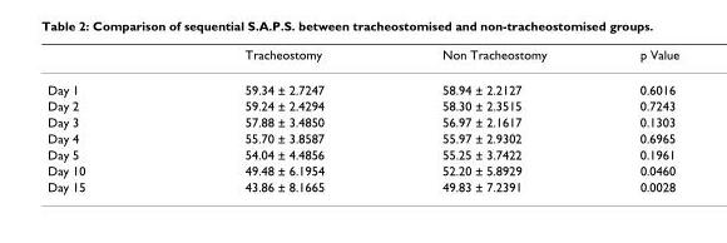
<table><thead><tr><td></td><td>Tracheostomy</td><td>Non Tracheostomy</td><td>p Value</td></tr></thead><tbody><tr><td>Day 1</td><td>59.34 ± 2.7247</td><td>58.94 ± 2.2127</td><td>0.6016</td></tr><tr><td>Day 2</td><td>59.24 ± 2.4294</td><td>58.30 ± 2.3515</td><td>0.7243</td></tr><tr><td>Day 3</td><td>57.88 ± 3.4850</td><td>56.97 ± 2.1617</td><td>0.1303</td></tr><tr><td>Day 4</td><td>55.70 ± 3.8587</td><td>55.97 ± 2.9302</td><td>0.6965</td></tr><tr><td>Day 5</td><td>54.04 ± 4.4856</td><td>55.25 ± 3.7422</td><td>0.1961</td></tr><tr><td>Day 10</td><td>49.48 ± 6.1954</td><td>52.20 ± 5.8929</td><td>0.0460</td></tr><tr><td>Day 15</td><td>43.86 ± 8.1665</td><td>49.83 ± 7.2391</td><td>0.0028</td></tr></tbody></table>